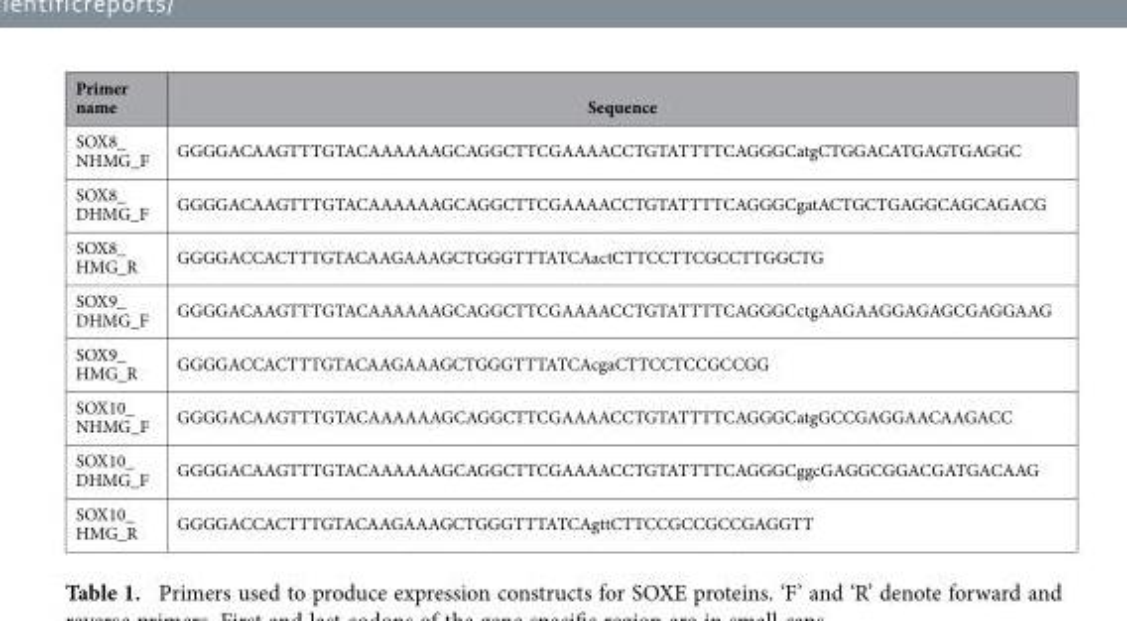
<table><thead><tr><td>Primer name</td><td>Sequence</td></tr></thead><tbody><tr><td>SOX8_ NHMG_F</td><td>GGGGACAAGTTTGTACAAAAAAGCAGGCTTCGAAAACCTGTATTTTCAGGGCatgCTGGACATGAGTGAGGC</td></tr><tr><td>SOX8_ DHMG_F</td><td>GGGGACAAGTTTGTACAAAAAAGCAGGCTTCGAAAACCTGTATTTTCAGGGCgatACTGCTGAGGCAGCAGACG</td></tr><tr><td>SOX8_ HMG_R</td><td>GGGGACCACTTTGTACAAGAAAGCTGGGTTTATCAactCTTCCTTCGCCTTGGCTG</td></tr><tr><td>SOX9_ DHMG_F</td><td>GGGGACAAGTTTGTACAAAAAAGCAGGCTTCGAAAACCTGTATTTTCAGGGCctgAAGAAGGAGAGCGAGGAAG</td></tr><tr><td>SOX9_ HMG_R</td><td>GGGGACCACTTTGTACAAGAAAGCTGGGTTTATCAcgaCTTCCTCCGCCGG</td></tr><tr><td>SOX10_ NHMG_F</td><td>GGGGACAAGTTTGTACAAAAAAGCAGGCTTCGAAAACCTGTATTTTCAGGGCatgGCCGAGGAACAAGACC</td></tr><tr><td>SOX10_ DHMG_F</td><td>GGGGACAAGTTTGTACAAAAAAGCAGGCTTCGAAAACCTGTATTTTCAGGGCggcGAGGCGGACGATGACAAG</td></tr><tr><td>SOX10_ HMG_R</td><td>GGGGACCACTTTGTACAAGAAAGCTGGGTTTATCAgttCTTCCGCCGCCGAGGTT</td></tr></tbody></table>